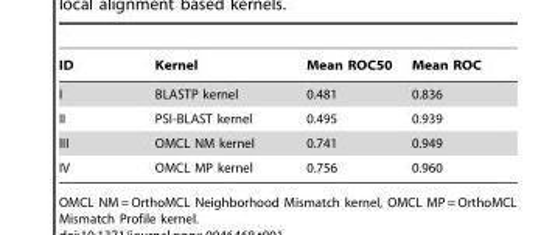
<table><thead><tr><td>ID</td><td>Kernel</td><td>Mean ROC50</td><td>Mean ROC</td></tr></thead><tbody><tr><td>I</td><td>BLASTP kernel</td><td>0.481</td><td>0.836</td></tr><tr><td>II</td><td>PSI-BLAST kernel</td><td>0.495</td><td>0.939</td></tr><tr><td>III</td><td>OMCL NM kernel</td><td>0.741</td><td>0.949</td></tr><tr><td>IV</td><td>OMCL MP kernel</td><td>0.756</td><td>0.960</td></tr></tbody></table>